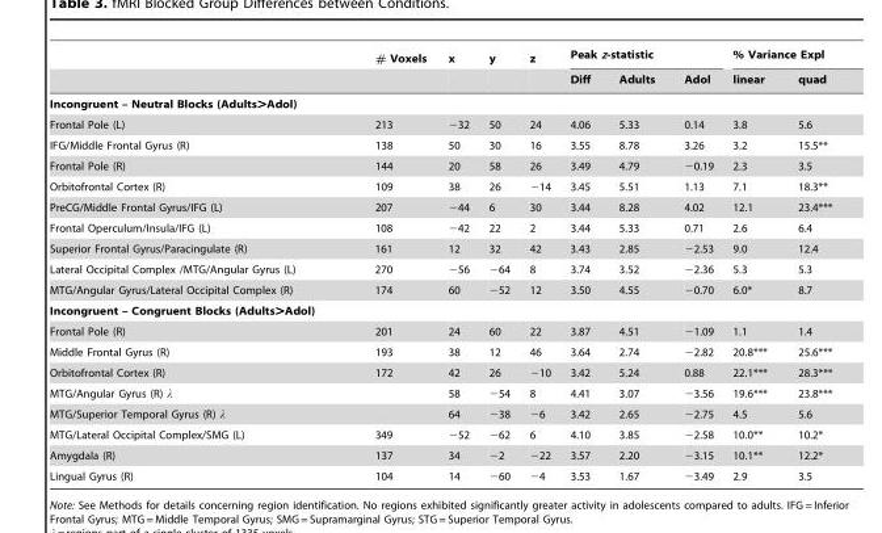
<table><thead><tr><td rowspan="2"></td><td rowspan="2"># Voxels</td><td rowspan="2">x</td><td rowspan="2">y</td><td rowspan="2">z</td><td colspan="3">Peak z-statistic</td><td colspan="2">% Variance Expl</td></tr><tr><td>Diff</td><td>Adults</td><td>Adol</td><td>linear</td><td>quad</td></tr></thead><tbody><tr><td colspan="10">Incongruent – Neutral Blocks (Adults&gt;Adol)</td></tr><tr><td>Frontal Pole (L)</td><td>213</td><td>−32</td><td>50</td><td>24</td><td>4.06</td><td>5.33</td><td>0.14</td><td>3.8</td><td>5.6</td></tr><tr><td>IFG/Middle Frontal Gyrus (R)</td><td>138</td><td>50</td><td>30</td><td>16</td><td>3.55</td><td>8.78</td><td>3.26</td><td>3.2</td><td>15.5**</td></tr><tr><td>Frontal Pole (R)</td><td>144</td><td>20</td><td>58</td><td>26</td><td>3.49</td><td>4.79</td><td>−0.19</td><td>2.3</td><td>3.5</td></tr><tr><td>Orbitofrontal Cortex (R)</td><td>109</td><td>38</td><td>26</td><td>−14</td><td>3.45</td><td>5.51</td><td>1.13</td><td>7.1</td><td>18.3**</td></tr><tr><td>PreCG/Middle Frontal Gyrus/IFG (L)</td><td>207</td><td>−44</td><td>6</td><td>30</td><td>3.44</td><td>8.28</td><td>4.02</td><td>12.1</td><td>23.4***</td></tr><tr><td>Frontal Operculum/Insula/IFG (L)</td><td>108</td><td>−42</td><td>22</td><td>2</td><td>3.44</td><td>5.33</td><td>0.71</td><td>2.6</td><td>6.4</td></tr><tr><td>Superior Frontal Gyrus/Paracingulate (R)</td><td>161</td><td>12</td><td>32</td><td>42</td><td>3.43</td><td>2.85</td><td>−2.53</td><td>9.0</td><td>12.4</td></tr><tr><td>Lateral Occipital Complex /MTG/Angular Gyrus (L)</td><td>270</td><td>−56</td><td>−64</td><td>8</td><td>3.74</td><td>3.52</td><td>−2.36</td><td>5.3</td><td>5.3</td></tr><tr><td>MTG/Angular Gyrus/Lateral Occipital Complex (R)</td><td>174</td><td>60</td><td>−52</td><td>12</td><td>3.50</td><td>4.55</td><td>−0.70</td><td>6.0*</td><td>8.7</td></tr><tr><td colspan="10">Incongruent – Congruent Blocks (Adults&gt;Adol)</td></tr><tr><td>Frontal Pole (R)</td><td>201</td><td>24</td><td>60</td><td>22</td><td>3.87</td><td>4.51</td><td>−1.09</td><td>1.1</td><td>1.4</td></tr><tr><td>Middle Frontal Gyrus (R)</td><td>193</td><td>38</td><td>12</td><td>46</td><td>3.64</td><td>2.74</td><td>−2.82</td><td>20.8***</td><td>25.6***</td></tr><tr><td>Orbitofrontal Cortex (R)</td><td>172</td><td>42</td><td>26</td><td>−10</td><td>3.42</td><td>5.24</td><td>0.88</td><td>22.1***</td><td>28.3***</td></tr><tr><td>MTG/Angular Gyrus (R) λ</td><td></td><td>58</td><td>−54</td><td>8</td><td>4.41</td><td>3.07</td><td>−3.56</td><td>19.6***</td><td>23.8***</td></tr><tr><td>MTG/Superior Temporal Gyrus (R) λ</td><td></td><td>64</td><td>−38</td><td>−6</td><td>3.42</td><td>2.65</td><td>−2.75</td><td>4.5</td><td>5.6</td></tr><tr><td>MTG/Lateral Occipital Complex/SMG (L)</td><td>349</td><td>−52</td><td>−62</td><td>6</td><td>4.10</td><td>3.85</td><td>−2.58</td><td>10.0**</td><td>10.2*</td></tr><tr><td>Amygdala (R)</td><td>137</td><td>34</td><td>−2</td><td>−22</td><td>3.57</td><td>2.20</td><td>−3.15</td><td>10.1**</td><td>12.2*</td></tr><tr><td>Lingual Gyrus (R)</td><td>104</td><td>14</td><td>−60</td><td>−4</td><td>3.53</td><td>1.67</td><td>−3.49</td><td>2.9</td><td>3.5</td></tr></tbody></table>